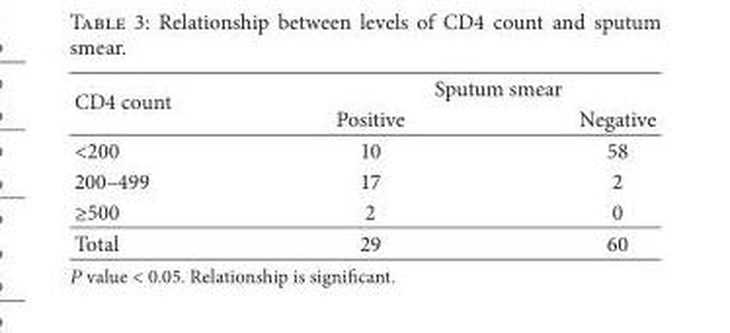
<table><thead><tr><td rowspan="2">CD4 count</td><td colspan="2">Sputum smear</td></tr><tr><td>Positive</td><td>Negative</td></tr></thead><tbody><tr><td>&lt;200</td><td>10</td><td>58</td></tr><tr><td>200–499</td><td>17</td><td>2</td></tr><tr><td>≥500</td><td>2</td><td>0</td></tr><tr><td>Total</td><td>29</td><td>60</td></tr></tbody></table>